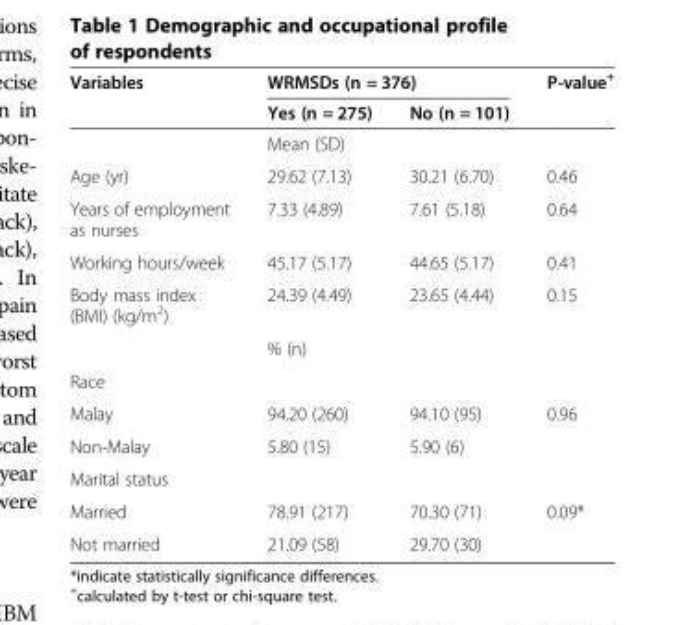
<table><thead><tr><td rowspan="2">Variables</td><td colspan="2">WRMSDs (n = 376)</td><td rowspan="2">P-value<sup>+</sup></td></tr><tr><td>Yes (n = 275)</td><td>No (n = 101)</td></tr></thead><tbody><tr><td></td><td colspan="2">Mean (SD)</td><td></td></tr><tr><td>Age (yr)</td><td>29.62 (7.13)</td><td>30.21 (6.70)</td><td>0.46</td></tr><tr><td>Years of employment as nurses</td><td>7.33 (4.89)</td><td>7.61 (5.18)</td><td>0.64</td></tr><tr><td>Working hours/week</td><td>45.17 (5.17)</td><td>44.65 (5.17)</td><td>0.41</td></tr><tr><td rowspan="2">Body mass index (BMI) (kg/m<sup>2</sup>)</td><td>24.39 (4.49)</td><td>23.65 (4.44)</td><td>0.15</td></tr><tr><td colspan="2">% (n)</td><td></td></tr><tr><td colspan="4">Race</td></tr><tr><td>Malay</td><td>94.20 (260)</td><td>94.10 (95)</td><td>0.96</td></tr><tr><td>Non-Malay</td><td>5.80 (15)</td><td>5.90 (6)</td><td></td></tr><tr><td colspan="4">Marital status</td></tr><tr><td>Married</td><td>78.91 (217)</td><td>70.30 (71)</td><td>0.09*</td></tr><tr><td>Not married</td><td>21.09 (58)</td><td>29.70 (30)</td><td></td></tr></tbody></table>